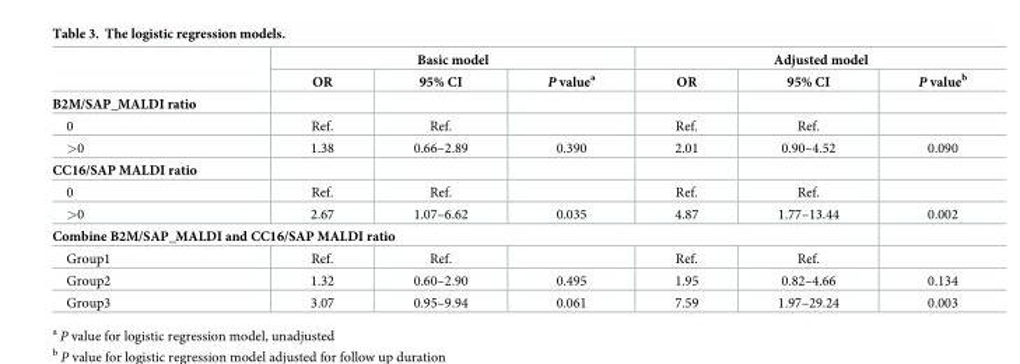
<table><thead><tr><td rowspan="2"></td><td colspan="3">Basic model</td><td colspan="3">Adjusted model</td></tr><tr><td>OR</td><td>95% CI</td><td>P value<sup>a</sup></td><td>OR</td><td>95% CI</td><td>P value<sup>b</sup></td></tr></thead><tbody><tr><td colspan="7">B2M/SAP_MALDI ratio</td></tr><tr><td>0</td><td>Ref.</td><td>Ref.</td><td></td><td>Ref.</td><td>Ref.</td><td></td></tr><tr><td>&gt;0</td><td>1.38</td><td>0.66–2.89</td><td>0.390</td><td>2.01</td><td>0.90–4.52</td><td>0.090</td></tr><tr><td colspan="7">CC16/SAP MALDI ratio</td></tr><tr><td>0</td><td>Ref.</td><td>Ref.</td><td></td><td>Ref.</td><td>Ref.</td><td></td></tr><tr><td>&gt;0</td><td>2.67</td><td>1.07–6.62</td><td>0.035</td><td>4.87</td><td>1.77–13.44</td><td>0.002</td></tr><tr><td colspan="7">Combine B2M/SAP_MALDI and CC16/SAP MALDI ratio</td></tr><tr><td>Group1</td><td>Ref.</td><td>Ref.</td><td></td><td>Ref.</td><td>Ref.</td><td></td></tr><tr><td>Group2</td><td>1.32</td><td>0.60–2.90</td><td>0.495</td><td>1.95</td><td>0.82–4.66</td><td>0.134</td></tr><tr><td>Group3</td><td>3.07</td><td>0.95–9.94</td><td>0.061</td><td>7.59</td><td>1.97–29.24</td><td>0.003</td></tr></tbody></table>